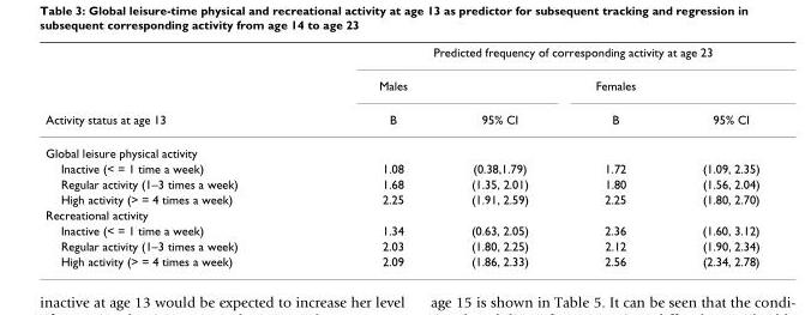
<table><thead><tr><td rowspan="3">Activity status at age 13</td><td colspan="4">Predicted frequency of corresponding activity at age 23</td></tr><tr><td rowspan="2">Males B</td><td rowspan="2">95% CI</td><td rowspan="2">Females B</td><td rowspan="2">95% CI</td></tr><tr></tr></thead><tbody><tr><td colspan="5">Global leisure physical activity</td></tr><tr><td>Inactive (&lt; = 1 time a week)</td><td>1.08</td><td>(0.38,1.79)</td><td>1.72</td><td>(1.09, 2.35)</td></tr><tr><td>Regular activity (1–3 times a week)</td><td>1.68</td><td>(1.35, 2.01)</td><td>1.80</td><td>(1.56, 2.04)</td></tr><tr><td>High activity (&gt; = 4 times a week)</td><td>2.25</td><td>(1.91, 2.59)</td><td>2.25</td><td>(1.80, 2.70)</td></tr><tr><td colspan="5">Recreational activity</td></tr><tr><td>Inactive (&lt; = 1 time a week)</td><td>1.34</td><td>(0.63, 2.05)</td><td>2.36</td><td>(1.60, 3.12)</td></tr><tr><td>Regular activity (1–3 times a week)</td><td>2.03</td><td>(1.80, 2.25)</td><td>2.12</td><td>(1.90, 2.34)</td></tr><tr><td>High activity (&gt; = 4 times a week)</td><td>2.09</td><td>(1.86, 2.33)</td><td>2.56</td><td>(2.34, 2.78)</td></tr></tbody></table>